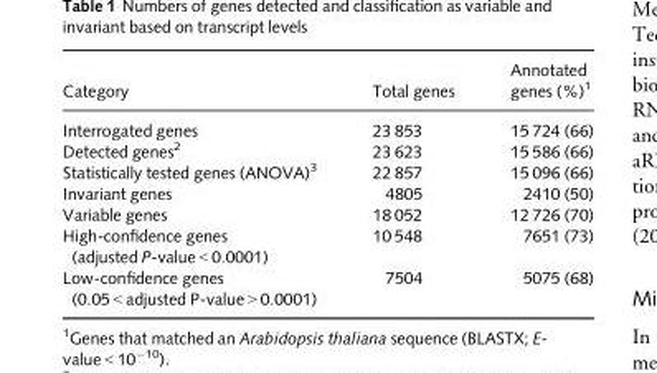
<table><thead><tr><td>Category</td><td>Total genes</td><td>Annotated genes (%)1</td></tr></thead><tbody><tr><td>Interrogated genes</td><td>23 853</td><td>15 724 (66)</td></tr><tr><td>Detected genes2</td><td>23 623</td><td>15 586 (66)</td></tr><tr><td>Statistically tested genes (ANOVA)3</td><td>22 857</td><td>15 096 (66)</td></tr><tr><td>Invariant genes</td><td>4805</td><td>2410 (50)</td></tr><tr><td>Variable genes</td><td>18 052</td><td>12 726 (70)</td></tr><tr><td>High-confidence genes (adjusted P-value &lt; 0.0001)</td><td>10 548</td><td>7651 (73)</td></tr><tr><td>Low-confidence genes (0.05 &lt; adjusted P-value &gt; 0.0001)</td><td>7504</td><td>5075 (68)</td></tr></tbody></table>